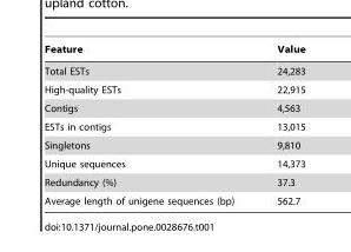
<table><thead><tr><td>Feature</td><td>Value</td></tr></thead><tbody><tr><td>Total ESTs</td><td>24,283</td></tr><tr><td>High-quality ESTs</td><td>22,915</td></tr><tr><td>Contigs</td><td>4,563</td></tr><tr><td>ESTs in contigs</td><td>13,015</td></tr><tr><td>Singletons</td><td>9,810</td></tr><tr><td>Unique sequences</td><td>14,373</td></tr><tr><td>Redundancy (%)</td><td>37.3</td></tr><tr><td>Average length of unigene sequences (bp)</td><td>562.7</td></tr></tbody></table>